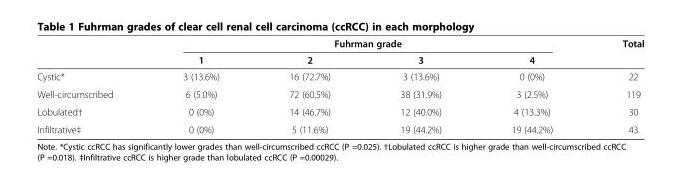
<table><thead><tr><td rowspan="2"></td><td colspan="4">Fuhrman grade</td><td rowspan="2">Total</td></tr><tr><td>1</td><td>2</td><td>3</td><td>4</td></tr></thead><tbody><tr><td>Cystic*</td><td>3 (13.6%)</td><td>16 (72.7%)</td><td>3 (13.6%)</td><td>0 (0%)</td><td>22</td></tr><tr><td>Well-circumscribed</td><td>6 (5.0%)</td><td>72 (60.5%)</td><td>38 (31.9%)</td><td>3 (2.5%)</td><td>119</td></tr><tr><td>Lobulated†</td><td>0 (0%)</td><td>14 (46.7%)</td><td>12 (40.0%)</td><td>4 (13.3%)</td><td>30</td></tr><tr><td>Infiltrative‡</td><td>0 (0%)</td><td>5 (11.6%)</td><td>19 (44.2%)</td><td>19 (44.2%)</td><td>43</td></tr></tbody></table>